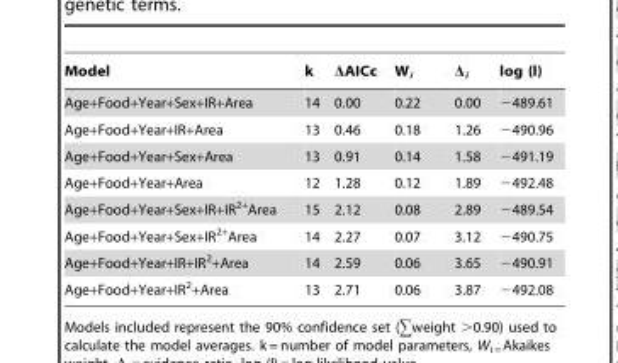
<table><thead><tr><td>Model</td><td>k</td><td>ΔAICc</td><td>W<sub>i</sub></td><td>Δ<sub>i</sub></td><td>log (l)</td></tr></thead><tbody><tr><td>Age+Food+Year+Sex+IR+Area</td><td>14</td><td>0.00</td><td>0.22</td><td>0.00</td><td>−489.61</td></tr><tr><td>Age+Food+Year+IR+Area</td><td>13</td><td>0.46</td><td>0.18</td><td>1.26</td><td>−490.96</td></tr><tr><td>Age+Food+Year+Sex+Area</td><td>13</td><td>0.91</td><td>0.14</td><td>1.58</td><td>−491.19</td></tr><tr><td>Age+Food+Year+Area</td><td>12</td><td>1.28</td><td>0.12</td><td>1.89</td><td>−492.48</td></tr><tr><td>Age+Food+Year+Sex+IR+IR<sup>2+</sup>Area</td><td>15</td><td>2.12</td><td>0.08</td><td>2.89</td><td>−489.54</td></tr><tr><td>Age+Food+Year+Sex+IR<sup>2+</sup>Area</td><td>14</td><td>2.27</td><td>0.07</td><td>3.12</td><td>−490.75</td></tr><tr><td>Age+Food+Year+IR+IR<sup>2</sup>+Area</td><td>14</td><td>2.59</td><td>0.06</td><td>3.65</td><td>−490.91</td></tr><tr><td>Age+Food+Year+IR<sup>2</sup>+Area</td><td>13</td><td>2.71</td><td>0.06</td><td>3.87</td><td>−492.08</td></tr></tbody></table>